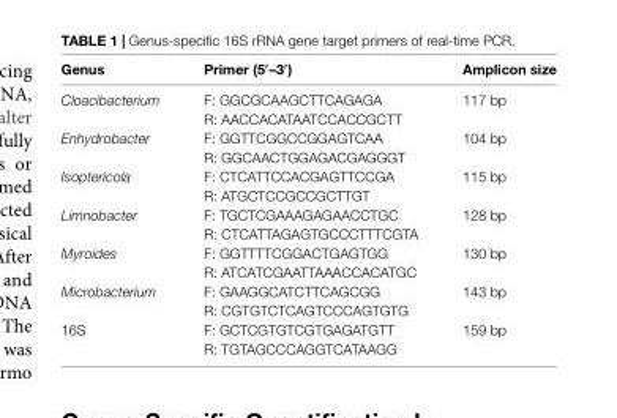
<table><thead><tr><td>Genus</td><td>Primer (5′–3′)</td><td>Amplicon size</td></tr></thead><tbody><tr><td rowspan="2">Cloacibacterium</td><td>F: GGCGCAAGCTTCAGAGA</td><td>117 bp</td></tr><tr><td>R: AACCACATAATCCACCGCTT</td><td></td></tr><tr><td rowspan="2">Enhydrobacter</td><td>F: GGTTCGGCCGGAGTCAA</td><td>104 bp</td></tr><tr><td>R: GGCAACTGGAGACGAGGGT</td><td></td></tr><tr><td rowspan="2">Isoptericola</td><td>F: CTCATTCCACGAGTTCCGA</td><td>115 bp</td></tr><tr><td>R: ATGCTCCGCCGCTTGT</td><td></td></tr><tr><td rowspan="2">Limnobacter</td><td>F: TGCTCGAAAGAGAACCTGC</td><td>128 bp</td></tr><tr><td>R: CTCATTAGAGTGCCCTTTCGTA</td><td></td></tr><tr><td rowspan="2">Myroides</td><td>F: GGTTTTCGGACTGAGTGG</td><td>130 bp</td></tr><tr><td>R: ATCATCGAATTAAACCACATGC</td><td></td></tr><tr><td rowspan="2">Microbacterium</td><td>F: GAAGGCATCTTCAGCGG</td><td>143 bp</td></tr><tr><td>R: CGTGTCTCAGTCCCAGTGTG</td><td></td></tr><tr><td rowspan="2">16S</td><td>F: GCTCGTGTCGTGAGATGTT</td><td>159 bp</td></tr><tr><td>R: TGTAGCCCAGGTCATAAGG</td><td></td></tr></tbody></table>